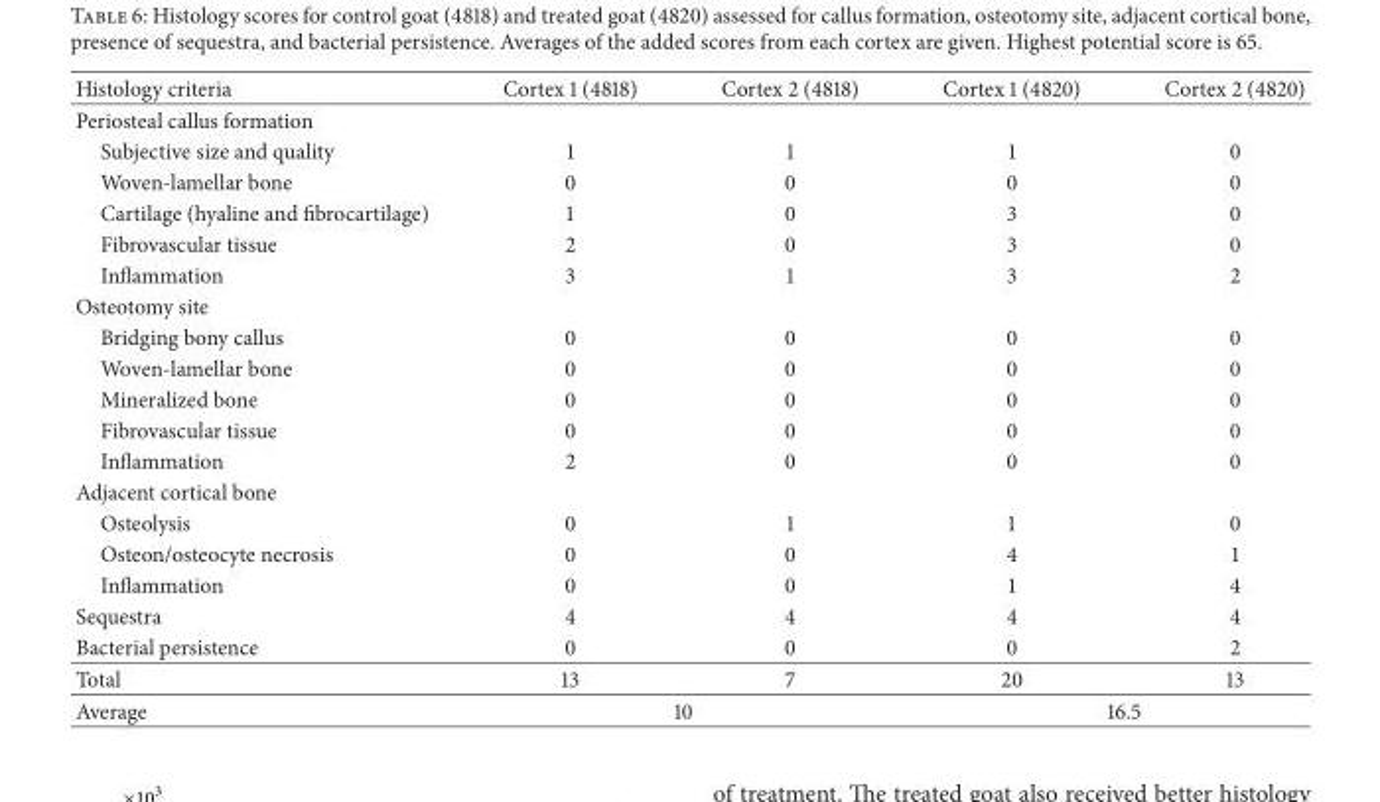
<table><thead><tr><td>Histology criteria</td><td>Cortex 1 (4818)</td><td>Cortex 2 (4818)</td><td>Cortex 1 (4820)</td><td>Cortex 2 (4820)</td></tr></thead><tbody><tr><td colspan="5">Periosteal callus formation</td></tr><tr><td>Subjective size and quality</td><td>1</td><td>1</td><td>1</td><td>0</td></tr><tr><td>Woven-lamellar bone</td><td>0</td><td>0</td><td>0</td><td>0</td></tr><tr><td>Cartilage (hyaline and fibrocartilage)</td><td>1</td><td>0</td><td>3</td><td>0</td></tr><tr><td>Fibrovascular tissue</td><td>2</td><td>0</td><td>3</td><td>0</td></tr><tr><td>Inflammation</td><td>3</td><td>1</td><td>3</td><td>2</td></tr><tr><td colspan="5">Osteotomy site</td></tr><tr><td>Bridging bony callus</td><td>0</td><td>0</td><td>0</td><td>0</td></tr><tr><td>Woven-lamellar bone</td><td>0</td><td>0</td><td>0</td><td>0</td></tr><tr><td>Mineralized bone</td><td>0</td><td>0</td><td>0</td><td>0</td></tr><tr><td>Fibrovascular tissue</td><td>0</td><td>0</td><td>0</td><td>0</td></tr><tr><td>Inflammation</td><td>2</td><td>0</td><td>0</td><td>0</td></tr><tr><td colspan="5">Adjacent cortical bone</td></tr><tr><td>Osteolysis</td><td>0</td><td>1</td><td>1</td><td>0</td></tr><tr><td>Osteon/osteocyte necrosis</td><td>0</td><td>0</td><td>4</td><td>1</td></tr><tr><td>Inflammation</td><td>0</td><td>0</td><td>1</td><td>4</td></tr><tr><td>Sequestra</td><td>4</td><td>4</td><td>4</td><td>4</td></tr><tr><td>Bacterial persistence</td><td>0</td><td>0</td><td>0</td><td>2</td></tr><tr><td>Total</td><td>13</td><td>7</td><td>20</td><td>13</td></tr><tr><td>Average</td><td colspan="2">10</td><td colspan="2">16.5</td></tr></tbody></table>